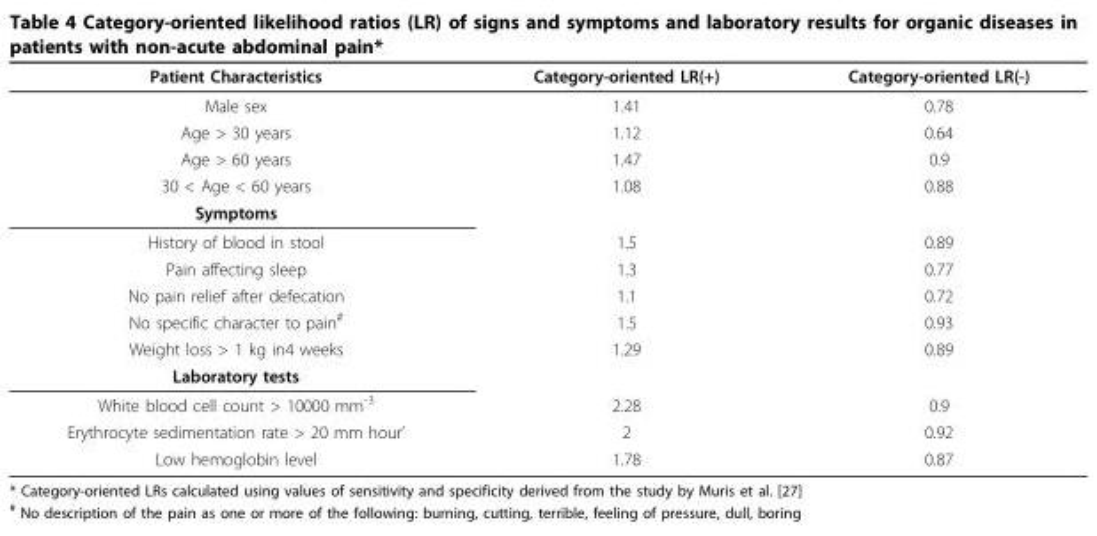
<table><thead><tr><td>Patient Characteristics</td><td>Category-oriented LR(+)</td><td>Category-oriented LR(-)</td></tr></thead><tbody><tr><td>Male sex</td><td>1.41</td><td>0.78</td></tr><tr><td>Age &gt; 30 years</td><td>1.12</td><td>0.64</td></tr><tr><td>Age &gt; 60 years</td><td>1.47</td><td>0.9</td></tr><tr><td>30 &lt; Age &lt; 60 years</td><td>1.08</td><td>0.88</td></tr><tr><td colspan="3">Symptoms</td></tr><tr><td>History of blood in stool</td><td>1.5</td><td>0.89</td></tr><tr><td>Pain affecting sleep</td><td>1.3</td><td>0.77</td></tr><tr><td>No pain relief after defecation</td><td>1.1</td><td>0.72</td></tr><tr><td>No specific character to pain<sup>#</sup></td><td>1.5</td><td>0.93</td></tr><tr><td>Weight loss &gt; 1 kg in4 weeks</td><td>1.29</td><td>0.89</td></tr><tr><td colspan="3">Laboratory tests</td></tr><tr><td>White blood cell count &gt; 10000 mm<sup>-3</sup></td><td>2.28</td><td>0.9</td></tr><tr><td>Erythrocyte sedimentation rate &gt; 20 mm hour’</td><td>2</td><td>0.92</td></tr><tr><td>Low hemoglobin level</td><td>1.78</td><td>0.87</td></tr></tbody></table>